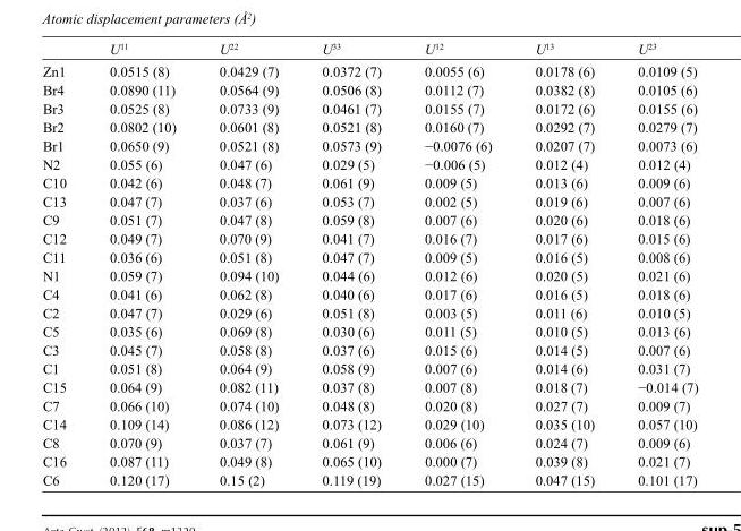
<table><thead><tr><td></td><td>U<sup>11</sup></td><td>U<sup>22</sup></td><td>U<sup>33</sup></td><td>U<sup>12</sup></td><td>U<sup>13</sup></td><td>U<sup>23</sup></td></tr></thead><tbody><tr><td>Zn1</td><td>0.0515 (8)</td><td>0.0429 (7)</td><td>0.0372 (7)</td><td>0.0055 (6)</td><td>0.0178 (6)</td><td>0.0109 (5)</td></tr><tr><td>Br4</td><td>0.0890 (11)</td><td>0.0564 (9)</td><td>0.0506 (8)</td><td>0.0112 (7)</td><td>0.0382 (8)</td><td>0.0105 (6)</td></tr><tr><td>Br3</td><td>0.0525 (8)</td><td>0.0733 (9)</td><td>0.0461 (7)</td><td>0.0155 (7)</td><td>0.0172 (6)</td><td>0.0155 (6)</td></tr><tr><td>Br2</td><td>0.0802 (10)</td><td>0.0601 (8)</td><td>0.0521 (8)</td><td>0.0160 (7)</td><td>0.0292 (7)</td><td>0.0279 (7)</td></tr><tr><td>Br1</td><td>0.0650 (9)</td><td>0.0521 (8)</td><td>0.0573 (9)</td><td>−0.0076 (6)</td><td>0.0207 (7)</td><td>0.0073 (6)</td></tr><tr><td>N2</td><td>0.055 (6)</td><td>0.047 (6)</td><td>0.029 (5)</td><td>−0.006 (5)</td><td>0.012 (4)</td><td>0.012 (4)</td></tr><tr><td>C10</td><td>0.042 (6)</td><td>0.048 (7)</td><td>0.061 (9)</td><td>0.009 (5)</td><td>0.013 (6)</td><td>0.009 (6)</td></tr><tr><td>C13</td><td>0.047 (7)</td><td>0.037 (6)</td><td>0.053 (7)</td><td>0.002 (5)</td><td>0.019 (6)</td><td>0.007 (6)</td></tr><tr><td>C9</td><td>0.051 (7)</td><td>0.047 (8)</td><td>0.059 (8)</td><td>0.007 (6)</td><td>0.020 (6)</td><td>0.018 (6)</td></tr><tr><td>C12</td><td>0.049 (7)</td><td>0.070 (9)</td><td>0.041 (7)</td><td>0.016 (7)</td><td>0.017 (6)</td><td>0.015 (6)</td></tr><tr><td>C11</td><td>0.036 (6)</td><td>0.051 (8)</td><td>0.047 (7)</td><td>0.009 (5)</td><td>0.016 (5)</td><td>0.008 (6)</td></tr><tr><td>N1</td><td>0.059 (7)</td><td>0.094 (10)</td><td>0.044 (6)</td><td>0.012 (6)</td><td>0.020 (5)</td><td>0.021 (6)</td></tr><tr><td>C4</td><td>0.041 (6)</td><td>0.062 (8)</td><td>0.040 (6)</td><td>0.017 (6)</td><td>0.016 (5)</td><td>0.018 (6)</td></tr><tr><td>C2</td><td>0.047 (7)</td><td>0.029 (6)</td><td>0.051 (8)</td><td>0.003 (5)</td><td>0.011 (6)</td><td>0.010 (5)</td></tr><tr><td>C5</td><td>0.035 (6)</td><td>0.069 (8)</td><td>0.030 (6)</td><td>0.011 (5)</td><td>0.010 (5)</td><td>0.013 (6)</td></tr><tr><td>C3</td><td>0.045 (7)</td><td>0.058 (8)</td><td>0.037 (6)</td><td>0.015 (6)</td><td>0.014 (5)</td><td>0.007 (6)</td></tr><tr><td>C1</td><td>0.051 (8)</td><td>0.064 (9)</td><td>0.058 (9)</td><td>0.007 (6)</td><td>0.014 (6)</td><td>0.031 (7)</td></tr><tr><td>C15</td><td>0.064 (9)</td><td>0.082 (11)</td><td>0.037 (8)</td><td>0.007 (8)</td><td>0.018 (7)</td><td>−0.014 (7)</td></tr><tr><td>C7</td><td>0.066 (10)</td><td>0.074 (10)</td><td>0.048 (8)</td><td>0.020 (8)</td><td>0.027 (7)</td><td>0.009 (7)</td></tr><tr><td>C14</td><td>0.109 (14)</td><td>0.086 (12)</td><td>0.073 (12)</td><td>0.029 (10)</td><td>0.035 (10)</td><td>0.057 (10)</td></tr><tr><td>C8</td><td>0.070 (9)</td><td>0.037 (7)</td><td>0.061 (9)</td><td>0.006 (6)</td><td>0.024 (7)</td><td>0.009 (6)</td></tr><tr><td>C16</td><td>0.087 (11)</td><td>0.049 (8)</td><td>0.065 (10)</td><td>0.000 (7)</td><td>0.039 (8)</td><td>0.021 (7)</td></tr><tr><td>C6</td><td>0.120 (17)</td><td>0.15 (2)</td><td>0.119 (19)</td><td>0.027 (15)</td><td>0.047 (15)</td><td>0.101 (17)</td></tr></tbody></table>